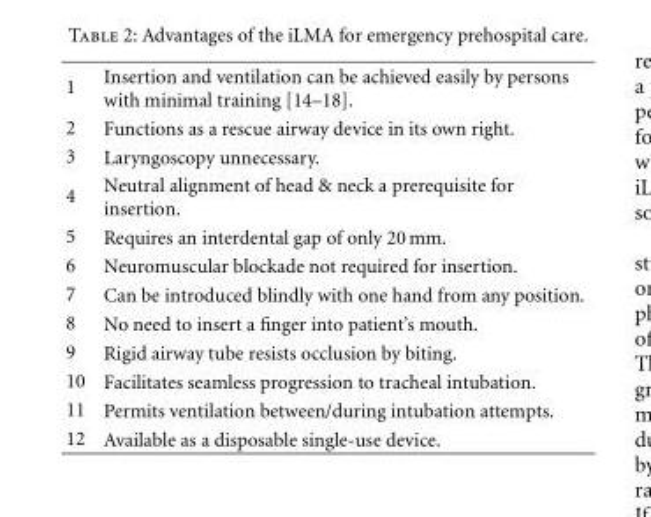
<table><tbody><tr><td>1</td><td>Insertion and ventilation can be achieved easily by persons with minimal training [14–18].</td></tr><tr><td>2</td><td>Functions as a rescue airway device in its own right.</td></tr><tr><td>3</td><td>Laryngoscopy unnecessary.</td></tr><tr><td>4</td><td>Neutral alignment of head &amp; neck a prerequisite for insertion.</td></tr><tr><td>5</td><td>Requires an interdental gap of only 20 mm.</td></tr><tr><td>6</td><td>Neuromuscular blockade not required for insertion.</td></tr><tr><td>7</td><td>Can be introduced blindly with one hand from any position.</td></tr><tr><td>8</td><td>No need to insert a finger into patient’s mouth.</td></tr><tr><td>9</td><td>Rigid airway tube resists occlusion by biting.</td></tr><tr><td>10</td><td>Facilitates seamless progression to tracheal intubation.</td></tr><tr><td>11</td><td>Permits ventilation between/during intubation attempts.</td></tr><tr><td>12</td><td>Available as a disposable single-use device.</td></tr></tbody></table>